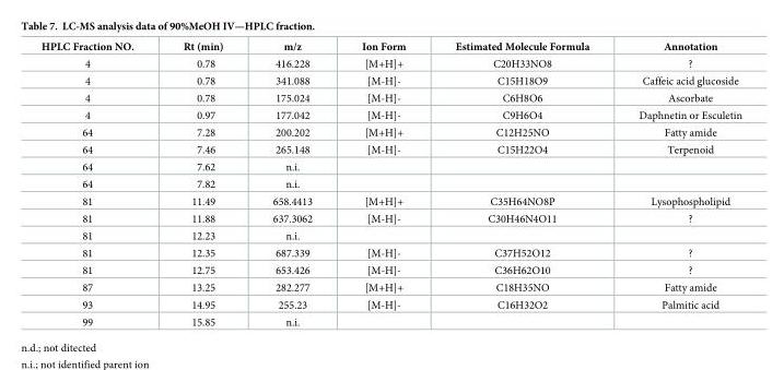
<table><thead><tr><td>HPLC Fraction NO.</td><td>Rt (min)</td><td>m/z</td><td>Ion Form</td><td>Estimated Molecule Formula</td><td>Annotation</td></tr></thead><tbody><tr><td>4</td><td>0.78</td><td>416.228</td><td>[M+H]+</td><td>C20H33NO8</td><td>?</td></tr><tr><td>4</td><td>0.78</td><td>341.088</td><td>[M-H]-</td><td>C15H18O9</td><td>Caffeic acid glucoside</td></tr><tr><td>4</td><td>0.78</td><td>175.024</td><td>[M-H]-</td><td>C6H8O6</td><td>Ascorbate</td></tr><tr><td>4</td><td>0.97</td><td>177.042</td><td>[M-H]-</td><td>C9H6O4</td><td>Daphnetin or Esculetin</td></tr><tr><td>64</td><td>7.28</td><td>200.202</td><td>[M+H]+</td><td>C12H25NO</td><td>Fatty amide</td></tr><tr><td>64</td><td>7.46</td><td>265.148</td><td>[M-H]-</td><td>C15H22O4</td><td>Terpenoid</td></tr><tr><td>64</td><td>7.62</td><td>n.i.</td><td></td><td></td><td></td></tr><tr><td>64</td><td>7.82</td><td>n.i.</td><td></td><td></td><td></td></tr><tr><td>81</td><td>11.49</td><td>658.4413</td><td>[M+H]+</td><td>C35H64NO8P</td><td>Lysophospholipid</td></tr><tr><td>81</td><td>11.88</td><td>637.3062</td><td>[M-H]-</td><td>C30H46N4O11</td><td>?</td></tr><tr><td>81</td><td>12.23</td><td>n.i.</td><td></td><td></td><td></td></tr><tr><td>81</td><td>12.35</td><td>687.339</td><td>[M-H]-</td><td>C37H52O12</td><td>?</td></tr><tr><td>81</td><td>12.75</td><td>653.426</td><td>[M-H]-</td><td>C36H62O10</td><td>?</td></tr><tr><td>87</td><td>13.25</td><td>282.277</td><td>[M+H]+</td><td>C18H35NO</td><td>Fatty amide</td></tr><tr><td>93</td><td>14.95</td><td>255.23</td><td>[M-H]-</td><td>C16H32O2</td><td>Palmitic acid</td></tr><tr><td>99</td><td>15.85</td><td>n.i.</td><td></td><td></td><td></td></tr></tbody></table>